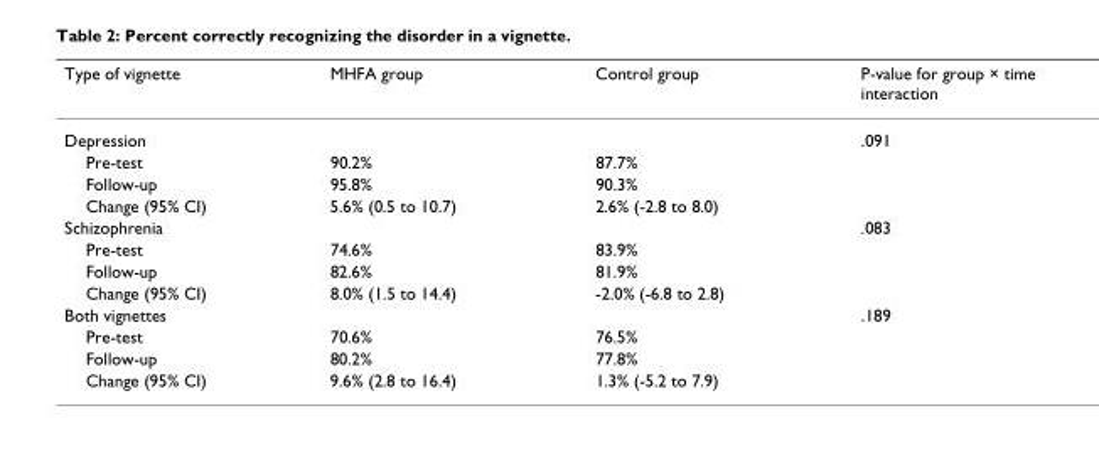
<table><thead><tr><td>Type of vignette</td><td>MHFA group</td><td>Control group</td><td>P-value for group × time interaction</td></tr></thead><tbody><tr><td>Depression</td><td></td><td></td><td>.091</td></tr><tr><td>Pre-test</td><td>90.2%</td><td>87.7%</td><td></td></tr><tr><td>Follow-up</td><td>95.8%</td><td>90.3%</td><td></td></tr><tr><td>Change (95% CI)</td><td>5.6% (0.5 to 10.7)</td><td>2.6% (-2.8 to 8.0)</td><td></td></tr><tr><td>Schizophrenia</td><td></td><td></td><td>.083</td></tr><tr><td>Pre-test</td><td>74.6%</td><td>83.9%</td><td></td></tr><tr><td>Follow-up</td><td>82.6%</td><td>81.9%</td><td></td></tr><tr><td>Change (95% CI)</td><td>8.0% (1.5 to 14.4)</td><td>-2.0% (-6.8 to 2.8)</td><td></td></tr><tr><td>Both vignettes</td><td></td><td></td><td>.189</td></tr><tr><td>Pre-test</td><td>70.6%</td><td>76.5%</td><td></td></tr><tr><td>Follow-up</td><td>80.2%</td><td>77.8%</td><td></td></tr><tr><td>Change (95% CI)</td><td>9.6% (2.8 to 16.4)</td><td>1.3% (-5.2 to 7.9)</td><td></td></tr></tbody></table>